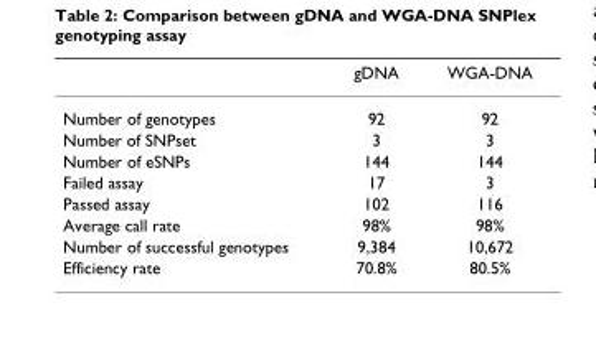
<table><thead><tr><td></td><td>gDNA</td><td>WGA-DNA</td></tr></thead><tbody><tr><td>Number of genotypes</td><td>92</td><td>92</td></tr><tr><td>Number of SNPset</td><td>3</td><td>3</td></tr><tr><td>Number of eSNPs</td><td>144</td><td>144</td></tr><tr><td>Failed assay</td><td>17</td><td>3</td></tr><tr><td>Passed assay</td><td>102</td><td>116</td></tr><tr><td>Average call rate</td><td>98%</td><td>98%</td></tr><tr><td>Number of successful genotypes</td><td>9,384</td><td>10,672</td></tr><tr><td>Efficiency rate</td><td>70.8%</td><td>80.5%</td></tr></tbody></table>